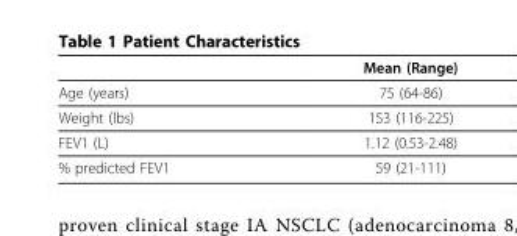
<table><thead><tr><td></td><td>Mean (Range)</td></tr></thead><tbody><tr><td>Age (years)</td><td>75 (64-86)</td></tr><tr><td>Weight (lbs)</td><td>153 (116-225)</td></tr><tr><td>FEV1 (L)</td><td>1.12 (0.53-2.48)</td></tr><tr><td>% predicted FEV1</td><td>59 (21-111)</td></tr></tbody></table>